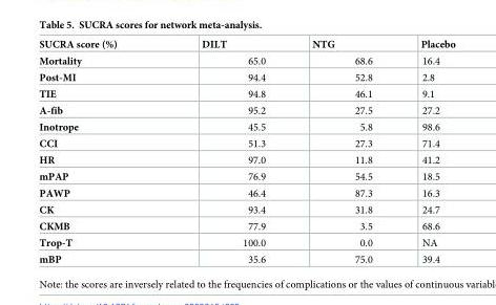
<table><thead><tr><td>SUCRA score (%)</td><td>DILT</td><td>NTG</td><td>Placebo</td></tr></thead><tbody><tr><td>Mortality</td><td>65.0</td><td>68.6</td><td>16.4</td></tr><tr><td>Post-MI</td><td>94.4</td><td>52.8</td><td>2.8</td></tr><tr><td>TIE</td><td>94.8</td><td>46.1</td><td>9.1</td></tr><tr><td>A-fib</td><td>95.2</td><td>27.5</td><td>27.2</td></tr><tr><td>Inotrope</td><td>45.5</td><td>5.8</td><td>98.6</td></tr><tr><td>CCI</td><td>51.3</td><td>27.3</td><td>71.4</td></tr><tr><td>HR</td><td>97.0</td><td>11.8</td><td>41.2</td></tr><tr><td>mPAP</td><td>76.9</td><td>54.5</td><td>18.5</td></tr><tr><td>PAWP</td><td>46.4</td><td>87.3</td><td>16.3</td></tr><tr><td>CK</td><td>93.4</td><td>31.8</td><td>24.7</td></tr><tr><td>CKMB</td><td>77.9</td><td>3.5</td><td>68.6</td></tr><tr><td>Trop-T</td><td>100.0</td><td>0.0</td><td>NA</td></tr><tr><td>mBP</td><td>35.6</td><td>75.0</td><td>39.4</td></tr></tbody></table>